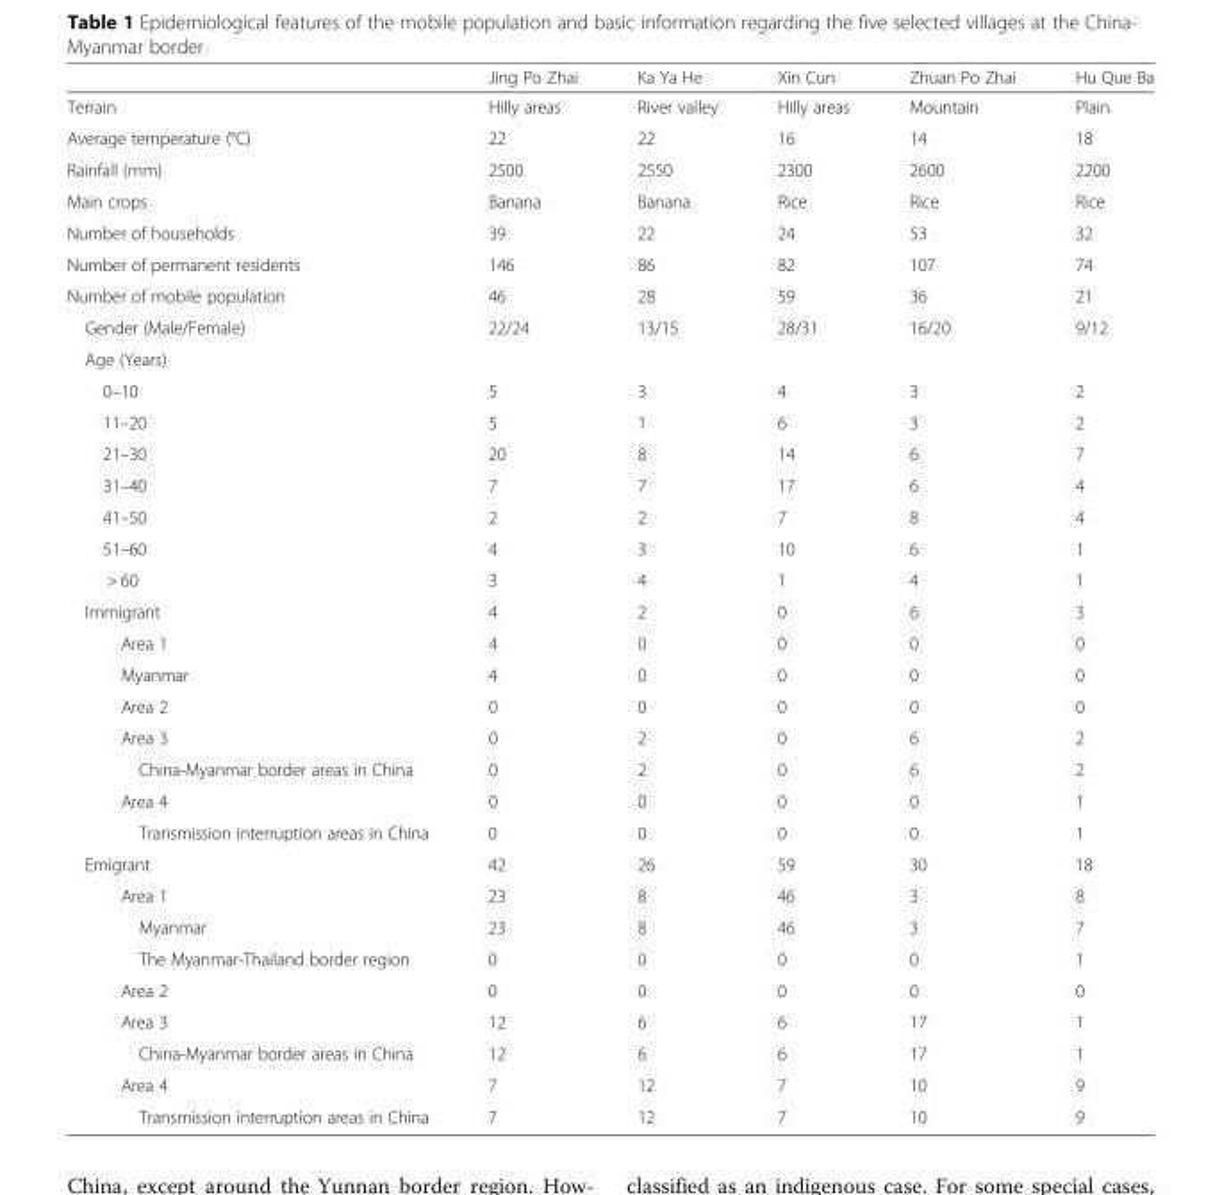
<table><thead><tr><td></td><td>Jing Po Zhai</td><td>Ka Ya He</td><td>Xin Cun</td><td>Zhuan Po Zhai</td><td>Hu Que Ba</td></tr></thead><tbody><tr><td>Terrain</td><td>Hilly areas</td><td>River valley</td><td>Hilly areas</td><td>Mountain</td><td>Plain</td></tr><tr><td>Average temperature (°C)</td><td>22</td><td>22</td><td>16</td><td>14</td><td>18</td></tr><tr><td>Rainfall (mm)</td><td>2500</td><td>2550</td><td>2300</td><td>2600</td><td>2200</td></tr><tr><td>Main crops</td><td>Banana</td><td>Banana</td><td>Rice</td><td>Rice</td><td>Rice</td></tr><tr><td>Number of households</td><td>39</td><td>22</td><td>24</td><td>53</td><td>32</td></tr><tr><td>Number of permanent residents</td><td>146</td><td>86</td><td>82</td><td>107</td><td>74</td></tr><tr><td>Number of mobile population</td><td>46</td><td>28</td><td>59</td><td>36</td><td>21</td></tr><tr><td>Gender (Male/Female)</td><td>22/24</td><td>13/15</td><td>28/31</td><td>16/20</td><td>9/12</td></tr><tr><td colspan="6">Age (Years)</td></tr><tr><td>0–10</td><td>5</td><td>3</td><td>4</td><td>3</td><td>2</td></tr><tr><td>11–20</td><td>5</td><td>1</td><td>6</td><td>3</td><td>2</td></tr><tr><td>21–30</td><td>20</td><td>8</td><td>14</td><td>6</td><td>7</td></tr><tr><td>31–40</td><td>7</td><td>7</td><td>17</td><td>6</td><td>4</td></tr><tr><td>41–50</td><td>2</td><td>2</td><td>7</td><td>8</td><td>4</td></tr><tr><td>51–60</td><td>4</td><td>3</td><td>10</td><td>6</td><td>1</td></tr><tr><td>&gt; 60</td><td>3</td><td>4</td><td>1</td><td>4</td><td>1</td></tr><tr><td>Immigrant</td><td>4</td><td>2</td><td>0</td><td>6</td><td>3</td></tr><tr><td>Area 1</td><td>4</td><td>0</td><td>0</td><td>0</td><td>0</td></tr><tr><td>Myanmar</td><td>4</td><td>0</td><td>0</td><td>0</td><td>0</td></tr><tr><td>Area 2</td><td>0</td><td>0</td><td>0</td><td>0</td><td>0</td></tr><tr><td>Area 3</td><td>0</td><td>2</td><td>0</td><td>6</td><td>2</td></tr><tr><td>China-Myanmar border areas in China</td><td>0</td><td>2</td><td>0</td><td>6</td><td>2</td></tr><tr><td>Area 4</td><td>0</td><td>0</td><td>0</td><td>0</td><td>1</td></tr><tr><td>Transmission interruption areas in China</td><td>0</td><td>0</td><td>0</td><td>0</td><td>1</td></tr><tr><td>Emigrant</td><td>42</td><td>26</td><td>59</td><td>30</td><td>18</td></tr><tr><td>Area 1</td><td>23</td><td>8</td><td>46</td><td>3</td><td>8</td></tr><tr><td>Myanmar</td><td>23</td><td>8</td><td>46</td><td>3</td><td>7</td></tr><tr><td>The Myanmar-Thailand border region</td><td>0</td><td>0</td><td>0</td><td>0</td><td>1</td></tr><tr><td>Area 2</td><td>0</td><td>0</td><td>0</td><td>0</td><td>0</td></tr><tr><td>Area 3</td><td>12</td><td>6</td><td>6</td><td>17</td><td>1</td></tr><tr><td>China-Myanmar border areas in China</td><td>12</td><td>6</td><td>6</td><td>17</td><td>1</td></tr><tr><td>Area 4</td><td>7</td><td>12</td><td>7</td><td>10</td><td>9</td></tr><tr><td>Transmission interruption areas in China</td><td>7</td><td>12</td><td>7</td><td>10</td><td>9</td></tr></tbody></table>